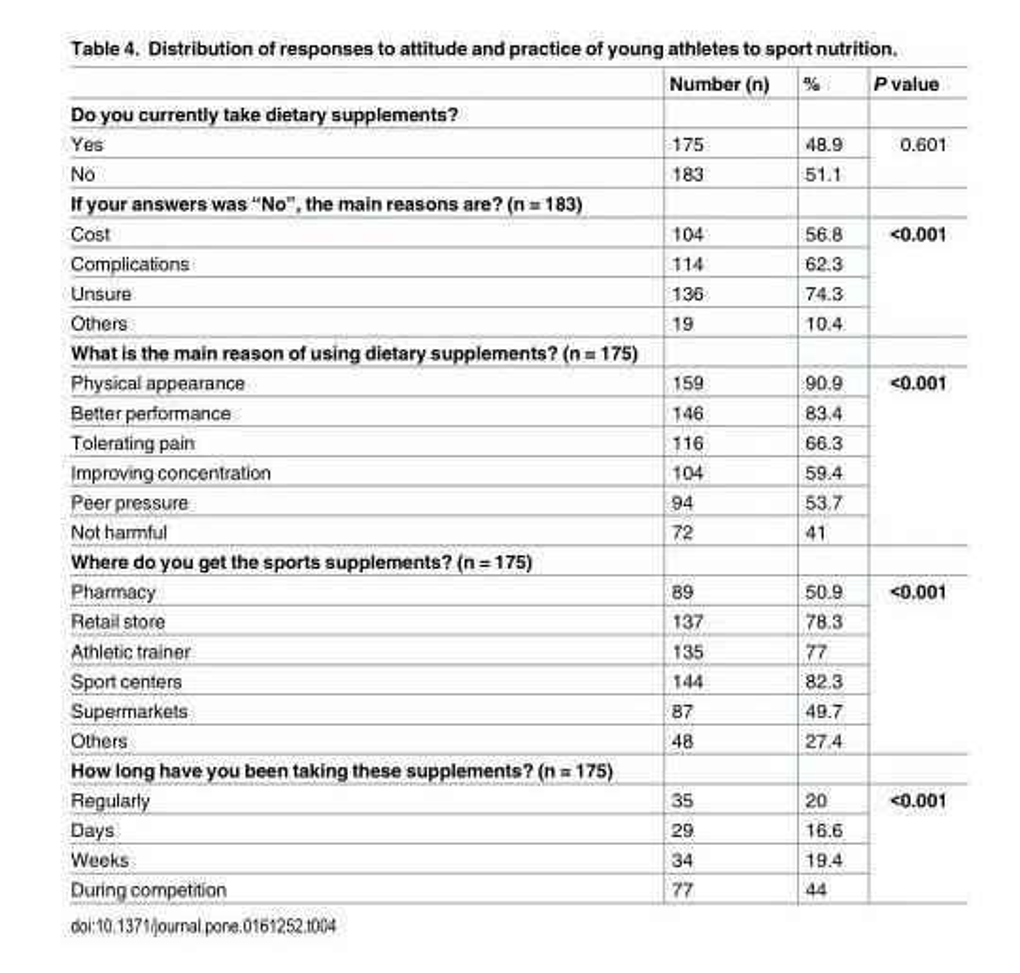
<table><thead><tr><td></td><td>Number (n)</td><td>%</td><td>P value</td></tr></thead><tbody><tr><td colspan="4">Do you currently take dietary supplements?</td></tr><tr><td>Yes</td><td>175</td><td>48.9</td><td rowspan="2">0.601</td></tr><tr><td>No</td><td>183</td><td>51.1</td></tr><tr><td colspan="4">If your answers was “No”, the main reasons are? (n = 183)</td></tr><tr><td>Cost</td><td>104</td><td>56.8</td><td rowspan="4">&lt;0.001</td></tr><tr><td>Complications</td><td>114</td><td>62.3</td></tr><tr><td>Unsure</td><td>136</td><td>74.3</td></tr><tr><td>Others</td><td>19</td><td>10.4</td></tr><tr><td colspan="4">What is the main reason of using dietary supplements? (n = 175)</td></tr><tr><td>Physical appearance</td><td>159</td><td>90.9</td><td rowspan="6">&lt;0.001</td></tr><tr><td>Better performance</td><td>146</td><td>83.4</td></tr><tr><td>Tolerating pain</td><td>116</td><td>66.3</td></tr><tr><td>Improving concentration</td><td>104</td><td>59.4</td></tr><tr><td>Peer pressure</td><td>94</td><td>53.7</td></tr><tr><td>Not harmful</td><td>72</td><td>41</td></tr><tr><td colspan="4">Where do you get the sports supplements? (n = 175)</td></tr><tr><td>Pharmacy</td><td>89</td><td>50.9</td><td rowspan="6">&lt;0.001</td></tr><tr><td>Retail store</td><td>137</td><td>78.3</td></tr><tr><td>Athletic trainer</td><td>135</td><td>77</td></tr><tr><td>Sport centers</td><td>144</td><td>82.3</td></tr><tr><td>Supermarkets</td><td>87</td><td>49.7</td></tr><tr><td>Others</td><td>48</td><td>27.4</td></tr><tr><td colspan="4">How long have you been taking these supplements? (n = 175)</td></tr><tr><td>Regularly</td><td>35</td><td>20</td><td rowspan="4">&lt;0.001</td></tr><tr><td>Days</td><td>29</td><td>16.6</td></tr><tr><td>Weeks</td><td>34</td><td>19.4</td></tr><tr><td>During competition</td><td>77</td><td>44</td></tr></tbody></table>